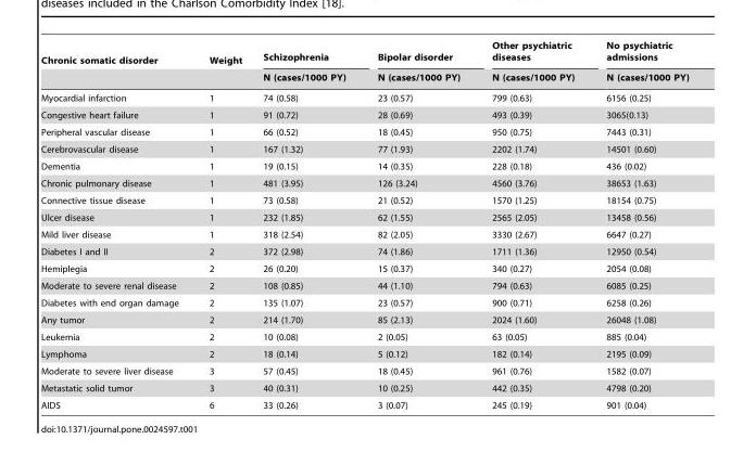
<table><thead><tr><td rowspan="2">Chronic somatic disorder</td><td rowspan="2">Weight</td><td rowspan="2">Schizophrenia N (cases/1000 PY)</td><td rowspan="2">Bipolar disorder N (cases/1000 PY)</td><td rowspan="2">Other psychiatric diseases N (cases/1000 PY)</td><td rowspan="2">No psychiatric admissions N (cases/1000 PY)</td></tr><tr></tr></thead><tbody><tr><td>Myocardial infarction</td><td>1</td><td>74 (0.58)</td><td>23 (0.57)</td><td>799 (0.63)</td><td>6156 (0.25)</td></tr><tr><td>Congestive heart failure</td><td>1</td><td>91 (0.72)</td><td>28 (0.69)</td><td>493 (0.39)</td><td>3065(0.13)</td></tr><tr><td>Peripheral vascular disease</td><td>1</td><td>66 (0.52)</td><td>18 (0.45)</td><td>950 (0.75)</td><td>7443 (0.31)</td></tr><tr><td>Cerebrovascular disease</td><td>1</td><td>167 (1.32)</td><td>77 (1.93)</td><td>2202 (1.74)</td><td>14501 (0.60)</td></tr><tr><td>Dementia</td><td>1</td><td>19 (0.15)</td><td>14 (0.35)</td><td>228 (0.18)</td><td>436 (0.02)</td></tr><tr><td>Chronic pulmonary disease</td><td>1</td><td>481 (3.95)</td><td>126 (3.24)</td><td>4560 (3.76)</td><td>38653 (1.63)</td></tr><tr><td>Connective tissue disease</td><td>1</td><td>73 (0.58)</td><td>21 (0.52)</td><td>1570 (1.25)</td><td>18154 (0.75)</td></tr><tr><td>Ulcer disease</td><td>1</td><td>232 (1.85)</td><td>62 (1.55)</td><td>2565 (2.05)</td><td>13458 (0.56)</td></tr><tr><td>Mild liver disease</td><td>1</td><td>318 (2.54)</td><td>82 (2.05)</td><td>3330 (2.67)</td><td>6647 (0.27)</td></tr><tr><td>Diabetes I and II</td><td>2</td><td>372 (2.98)</td><td>74 (1.86)</td><td>1711 (1.36)</td><td>12950 (0.54)</td></tr><tr><td>Hemiplegia</td><td>2</td><td>26 (0.20)</td><td>15 (0.37)</td><td>340 (0.27)</td><td>2054 (0.08)</td></tr><tr><td>Moderate to severe renal disease</td><td>2</td><td>108 (0.85)</td><td>44 (1.10)</td><td>794 (0.63)</td><td>6085 (0.25)</td></tr><tr><td>Diabetes with end organ damage</td><td>2</td><td>135 (1.07)</td><td>23 (0.57)</td><td>900 (0.71)</td><td>6258 (0.26)</td></tr><tr><td>Any tumor</td><td>2</td><td>214 (1.70)</td><td>85 (2.13)</td><td>2024 (1.60)</td><td>26048 (1.08)</td></tr><tr><td>Leukemia</td><td>2</td><td>10 (0.08)</td><td>2 (0.05)</td><td>63 (0.05)</td><td>885 (0.04)</td></tr><tr><td>Lymphoma</td><td>2</td><td>18 (0.14)</td><td>5 (0.12)</td><td>182 (0.14)</td><td>2195 (0.09)</td></tr><tr><td>Moderate to severe liver disease</td><td>3</td><td>57 (0.45)</td><td>18 (0.45)</td><td>961 (0.76)</td><td>1582 (0.07)</td></tr><tr><td>Metastatic solid tumor</td><td>3</td><td>40 (0.31)</td><td>10 (0.25)</td><td>442 (0.35)</td><td>4798 (0.20)</td></tr><tr><td>AIDS</td><td>6</td><td>33 (0.26)</td><td>3 (0.07)</td><td>245 (0.19)</td><td>901 (0.04)</td></tr></tbody></table>